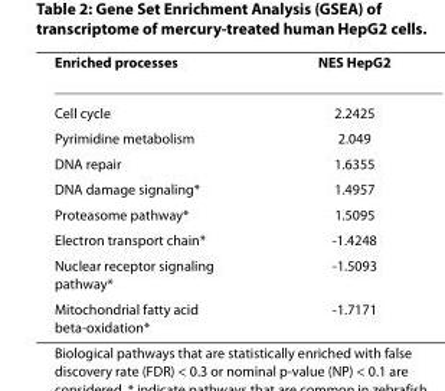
<table><thead><tr><td>Enriched processes</td><td>NES HepG2</td></tr></thead><tbody><tr><td>Cell cycle</td><td>2.2425</td></tr><tr><td>Pyrimidine metabolism</td><td>2.049</td></tr><tr><td>DNA repair</td><td>1.6355</td></tr><tr><td>DNA damage signaling*</td><td>1.4957</td></tr><tr><td>Proteasome pathway*</td><td>1.5095</td></tr><tr><td>Electron transport chain*</td><td>-1.4248</td></tr><tr><td>Nuclear receptor signaling pathway*</td><td>-1.5093</td></tr><tr><td>Mitochondrial fatty acid beta-oxidation*</td><td>-1.7171</td></tr></tbody></table>